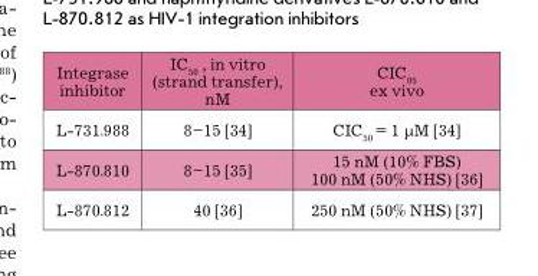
<table><tbody><tr><td>Integrase inhibitor</td><td>IC<sub>50</sub> , in vitro (strand transfer), nM</td><td>CIC<sub>95</sub> ex vivo</td></tr><tr><td>L-731.988</td><td>8–15 [34]</td><td>CIC<sub>50</sub> = 1 µM [34]</td></tr><tr><td>L-870.810</td><td>8–15 [35]</td><td>15 nM (10% FBS) 100 nM (50% NHS) [36]</td></tr><tr><td>L-870.812</td><td>40 [36]</td><td>250 nM (50% NHS) [37]</td></tr></tbody></table>